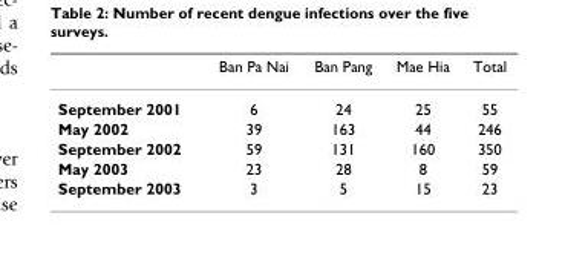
<table><thead><tr><td></td><td>Ban Pa Nai</td><td>Ban Pang</td><td>Mae Hia</td><td>Total</td></tr></thead><tbody><tr><td>September 2001</td><td>6</td><td>24</td><td>25</td><td>55</td></tr><tr><td>May 2002</td><td>39</td><td>163</td><td>44</td><td>246</td></tr><tr><td>September 2002</td><td>59</td><td>131</td><td>160</td><td>350</td></tr><tr><td>May 2003</td><td>23</td><td>28</td><td>8</td><td>59</td></tr><tr><td>September 2003</td><td>3</td><td>5</td><td>15</td><td>23</td></tr></tbody></table>